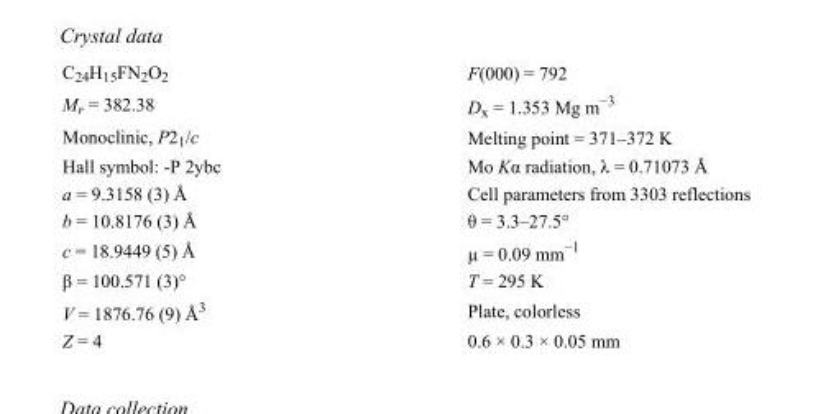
<table><tbody><tr><td>C<sub>24</sub>H<sub>15</sub>FN<sub>2</sub>O<sub>2</sub></td><td>F(000) = 792</td></tr><tr><td>M<sub>r</sub> = 382.38</td><td>D<sub>x</sub> = 1.353 Mg m<sup>−3</sup></td></tr><tr><td>Monoclinic, P2<sub>1</sub>/c</td><td>Melting point = 371–372 K</td></tr><tr><td>Hall symbol: -P 2ybc</td><td>Mo Kα radiation, λ = 0.71073 Å</td></tr><tr><td>a = 9.3158 (3) Å</td><td>Cell parameters from 3303 reflections</td></tr><tr><td>b = 10.8176 (3) Å</td><td>θ = 3.3–27.5°</td></tr><tr><td>c = 18.9449 (5) Å</td><td>µ = 0.09 mm<sup>−1</sup></td></tr><tr><td>β = 100.571 (3)°</td><td>T = 295 K</td></tr><tr><td>V = 1876.76 (9) Å<sup>3</sup></td><td>Plate, colorless</td></tr><tr><td>Z = 4</td><td>0.6 × 0.3 × 0.05 mm</td></tr></tbody></table>